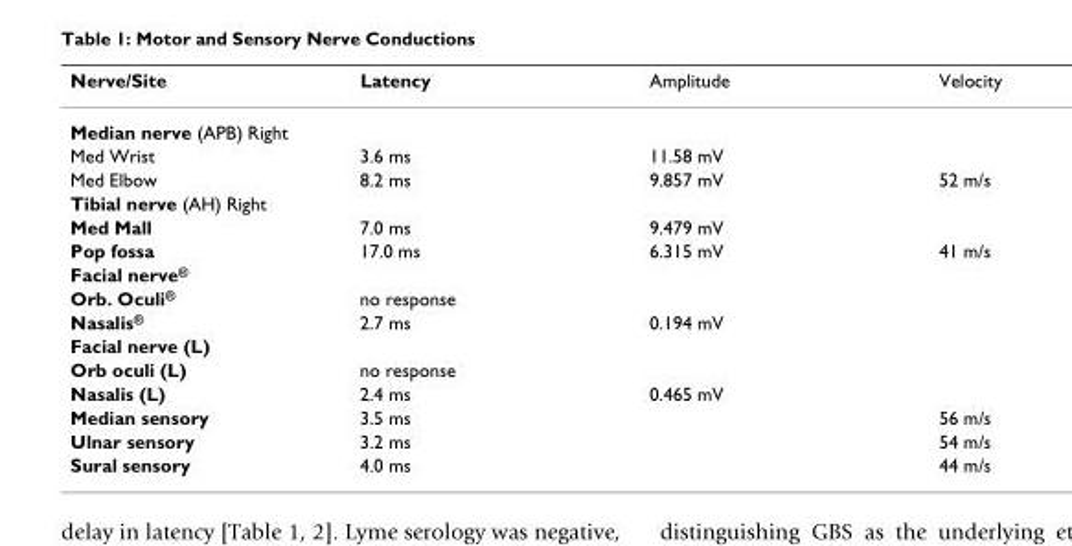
<table><thead><tr><td>Nerve/Site</td><td>Latency</td><td>Amplitude</td><td>Velocity</td></tr></thead><tbody><tr><td colspan="4">Median nerve (APB) Right</td></tr><tr><td>Med Wrist</td><td>3.6 ms</td><td>11.58 mV</td><td></td></tr><tr><td>Med Elbow</td><td>8.2 ms</td><td>9.857 mV</td><td>52 m/s</td></tr><tr><td colspan="4">Tibial nerve (AH) Right</td></tr><tr><td>Med Mall</td><td>7.0 ms</td><td>9.479 mV</td><td></td></tr><tr><td>Pop fossa</td><td>17.0 ms</td><td>6.315 mV</td><td>41 m/s</td></tr><tr><td colspan="4">Facial nerve<sup>®</sup></td></tr><tr><td>Orb. Oculi<sup>®</sup></td><td>no response</td><td></td><td></td></tr><tr><td>Nasalis<sup>®</sup></td><td>2.7 ms</td><td>0.194 mV</td><td></td></tr><tr><td colspan="4">Facial nerve (L)</td></tr><tr><td>Orb oculi (L)</td><td>no response</td><td></td><td></td></tr><tr><td>Nasalis (L)</td><td>2.4 ms</td><td>0.465 mV</td><td></td></tr><tr><td>Median sensory</td><td>3.5 ms</td><td></td><td>56 m/s</td></tr><tr><td>Ulnar sensory</td><td>3.2 ms</td><td></td><td>54 m/s</td></tr><tr><td>Sural sensory</td><td>4.0 ms</td><td></td><td>44 m/s</td></tr></tbody></table>